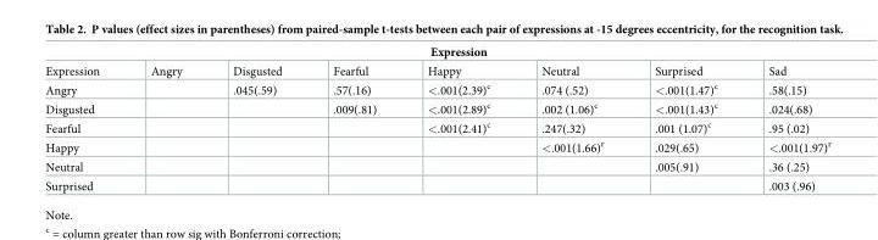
<table><thead><tr><td colspan="8">Expression</td></tr><tr><td>Expression</td><td>Angry</td><td>Disgusted</td><td>Fearful</td><td>Happy</td><td>Neutral</td><td>Surprised</td><td>Sad</td></tr></thead><tbody><tr><td>Angry</td><td></td><td>.045(.59)</td><td>.57(.16)</td><td>&lt;.001(2.39)<sup>c</sup></td><td>.074 (.52)</td><td>&lt;.001(1.47)<sup>c</sup></td><td>.58(.15)</td></tr><tr><td>Disgusted</td><td></td><td></td><td>.009(.81)</td><td>&lt;.001(2.89)<sup>c</sup></td><td>.002 (1.06)<sup>c</sup></td><td>&lt;.001(1.43)<sup>c</sup></td><td>.024(.68)</td></tr><tr><td>Fearful</td><td></td><td></td><td></td><td>&lt;.001(2.41)<sup>c</sup></td><td>.247(.32)</td><td>.001 (1.07)<sup>c</sup></td><td>.95 (.02)</td></tr><tr><td>Happy</td><td></td><td></td><td></td><td></td><td>&lt;.001(1.66)<sup>r</sup></td><td>.029(.65)</td><td>&lt;.001(1.97)<sup>r</sup></td></tr><tr><td>Neutral</td><td></td><td></td><td></td><td></td><td></td><td>.005(.91)</td><td>.36 (.25)</td></tr><tr><td>Surprised</td><td></td><td></td><td></td><td></td><td></td><td></td><td>.003 (.96)</td></tr></tbody></table>